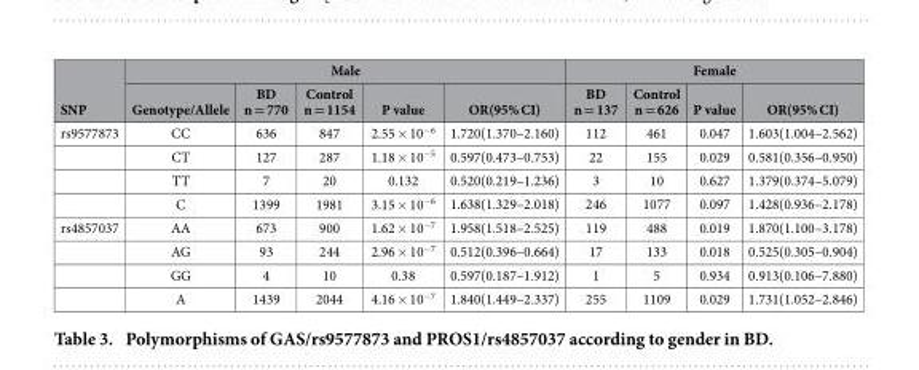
<table><thead><tr><td rowspan="2">SNP</td><td colspan="5">Male</td><td colspan="4">Female</td></tr><tr><td>Genotype/Allele</td><td>BD n = 770</td><td>Control n = 1154</td><td>P value</td><td>OR(95% CI)</td><td>BD n = 137</td><td>Control n = 626</td><td>P value</td><td>OR(95% CI)</td></tr></thead><tbody><tr><td rowspan="4">rs9577873</td><td>CC</td><td>636</td><td>847</td><td>2.55 × 10<sup>−6</sup></td><td>1.720(1.370–2.160)</td><td>112</td><td>461</td><td>0.047</td><td>1.603(1.004–2.562)</td></tr><tr><td>CT</td><td>127</td><td>287</td><td>1.18 × 10<sup>−5</sup></td><td>0.597(0.473–0.753)</td><td>22</td><td>155</td><td>0.029</td><td>0.581(0.356–0.950)</td></tr><tr><td>TT</td><td>7</td><td>20</td><td>0.132</td><td>0.520(0.219–1.236)</td><td>3</td><td>10</td><td>0.627</td><td>1.379(0.374–5.079)</td></tr><tr><td>C</td><td>1399</td><td>1981</td><td>3.15 × 10<sup>−6</sup></td><td>1.638(1.329–2.018)</td><td>246</td><td>1077</td><td>0.097</td><td>1.428(0.936–2.178)</td></tr><tr><td rowspan="4">rs4857037</td><td>AA</td><td>673</td><td>900</td><td>1.62 × 10<sup>−7</sup></td><td>1.958(1.518–2.525)</td><td>119</td><td>488</td><td>0.019</td><td>1.870(1.100–3.178)</td></tr><tr><td>AG</td><td>93</td><td>244</td><td>2.96 × 10<sup>−7</sup></td><td>0.512(0.396–0.664)</td><td>17</td><td>133</td><td>0.018</td><td>0.525(0.305–0.904)</td></tr><tr><td>GG</td><td>4</td><td>10</td><td>0.38</td><td>0.597(0.187–1.912)</td><td>1</td><td>5</td><td>0.934</td><td>0.913(0.106–7.880)</td></tr><tr><td>A</td><td>1439</td><td>2044</td><td>4.16 × 10<sup>−7</sup></td><td>1.840(1.449–2.337)</td><td>255</td><td>1109</td><td>0.029</td><td>1.731(1.052–2.846)</td></tr></tbody></table>